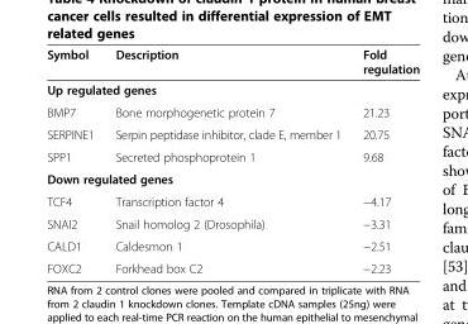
<table><thead><tr><td>Symbol</td><td>Description</td><td>Fold regulation</td></tr></thead><tbody><tr><td colspan="3">Up regulated genes</td></tr><tr><td>BMP7</td><td>Bone morphogenetic protein 7</td><td>21.23</td></tr><tr><td>SERPINE1</td><td>Serpin peptidase inhibitor, clade E, member 1</td><td>20.75</td></tr><tr><td>SPP1</td><td>Secreted phosphoprotein 1</td><td>9.68</td></tr><tr><td colspan="3">Down regulated genes</td></tr><tr><td>TCF4</td><td>Transcription factor 4</td><td>−4.17</td></tr><tr><td>SNAI2</td><td>Snail homolog 2 (Drosophila)</td><td>−3.31</td></tr><tr><td>CALD1</td><td>Caldesmon 1</td><td>−2.51</td></tr><tr><td>FOXC2</td><td>Forkhead box C2</td><td>−2.23</td></tr></tbody></table>